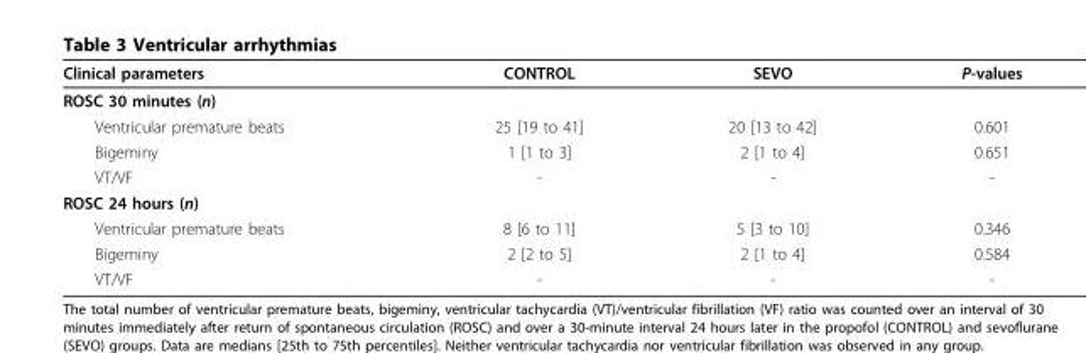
<table><thead><tr><td>Clinical parameters</td><td>CONTROL</td><td>SEVO</td><td>P-values</td></tr></thead><tbody><tr><td colspan="4">ROSC 30 minutes (n)</td></tr><tr><td>Ventricular premature beats</td><td>25 [19 to 41]</td><td>20 [13 to 42]</td><td>0.601</td></tr><tr><td>Bigeminy</td><td>1 [1 to 3]</td><td>2 [1 to 4]</td><td>0.651</td></tr><tr><td>VT/VF</td><td>-</td><td>-</td><td>-</td></tr><tr><td colspan="4">ROSC 24 hours (n)</td></tr><tr><td>Ventricular premature beats</td><td>8 [6 to 11]</td><td>5 [3 to 10]</td><td>0.346</td></tr><tr><td>Bigeminy</td><td>2 [2 to 5]</td><td>2 [1 to 4]</td><td>0.584</td></tr><tr><td>VT/VF</td><td>-</td><td>-</td><td>-</td></tr></tbody></table>